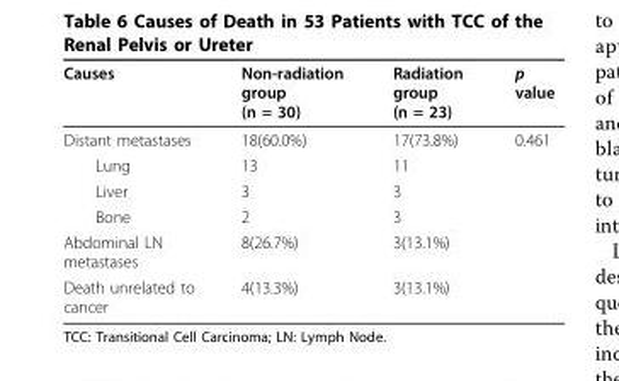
<table><thead><tr><td>Causes</td><td>Non-radiation group (n = 30)</td><td>Radiation group (n = 23)</td><td>p value</td></tr></thead><tbody><tr><td>Distant metastases</td><td>18(60.0%)</td><td>17(73.8%)</td><td>0.461</td></tr><tr><td>Lung</td><td>13</td><td>11</td><td></td></tr><tr><td>Liver</td><td>3</td><td>3</td><td></td></tr><tr><td>Bone</td><td>2</td><td>3</td><td></td></tr><tr><td>Abdominal LN metastases</td><td>8(26.7%)</td><td>3(13.1%)</td><td></td></tr><tr><td>Death unrelated to cancer</td><td>4(13.3%)</td><td>3(13.1%)</td><td></td></tr></tbody></table>